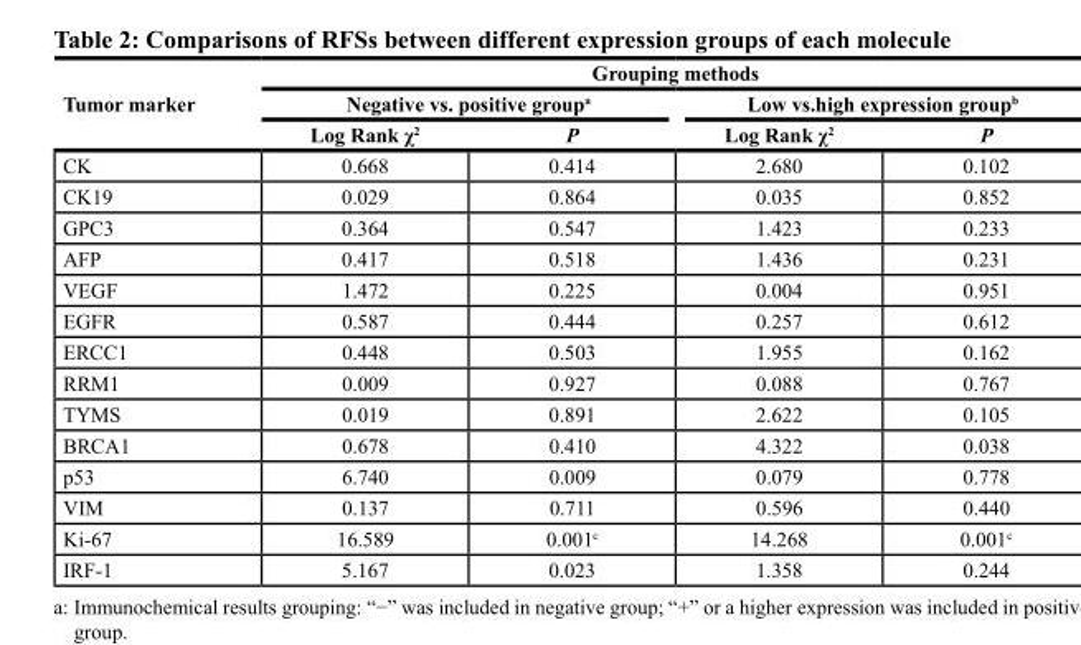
<table><thead><tr><td rowspan="3">tumor marker</td><td colspan="4">Grouping methods</td></tr><tr><td colspan="2">negative vs. positive group<sup>a</sup></td><td colspan="2">Low vs.high expression group<sup>b</sup></td></tr><tr><td>Log Rank χ<sup>2</sup></td><td>P</td><td>Log Rank χ<sup>2</sup></td><td>P</td></tr></thead><tbody><tr><td>CK</td><td>0.668</td><td>0.414</td><td>2.680</td><td>0.102</td></tr><tr><td>CK19</td><td>0.029</td><td>0.864</td><td>0.035</td><td>0.852</td></tr><tr><td>GPC3</td><td>0.364</td><td>0.547</td><td>1.423</td><td>0.233</td></tr><tr><td>AFP</td><td>0.417</td><td>0.518</td><td>1.436</td><td>0.231</td></tr><tr><td>VEGF</td><td>1.472</td><td>0.225</td><td>0.004</td><td>0.951</td></tr><tr><td>EGFR</td><td>0.587</td><td>0.444</td><td>0.257</td><td>0.612</td></tr><tr><td>ERCC1</td><td>0.448</td><td>0.503</td><td>1.955</td><td>0.162</td></tr><tr><td>RRM1</td><td>0.009</td><td>0.927</td><td>0.088</td><td>0.767</td></tr><tr><td>TYMS</td><td>0.019</td><td>0.891</td><td>2.622</td><td>0.105</td></tr><tr><td>BRCA1</td><td>0.678</td><td>0.410</td><td>4.322</td><td>0.038</td></tr><tr><td>p53</td><td>6.740</td><td>0.009</td><td>0.079</td><td>0.778</td></tr><tr><td>VIM</td><td>0.137</td><td>0.711</td><td>0.596</td><td>0.440</td></tr><tr><td>Ki-67</td><td>16.589</td><td>0.001<sup>c</sup></td><td>14.268</td><td>0.001<sup>c</sup></td></tr><tr><td>IRF-1</td><td>5.167</td><td>0.023</td><td>1.358</td><td>0.244</td></tr></tbody></table>